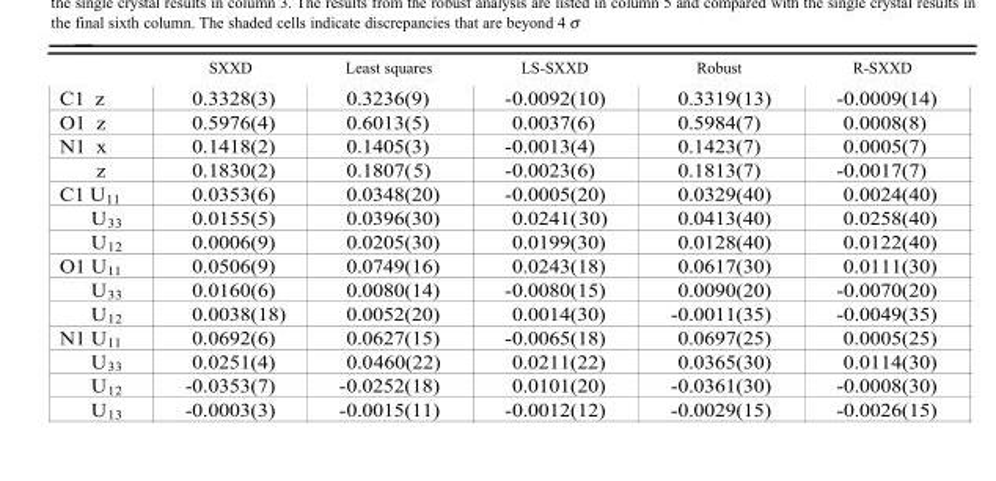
<table><thead><tr><td></td><td>SXXD</td><td>Least squares</td><td>LS-SXXD</td><td>Robust</td><td>R-SXXD</td></tr></thead><tbody><tr><td>C1 z</td><td>0.3328(3)</td><td>0.3236(9)</td><td>-0.0092(10)</td><td>0.3319(13)</td><td>-0.0009(14)</td></tr><tr><td>O1 z</td><td>0.5976(4)</td><td>0.6013(5)</td><td>0.0037(6)</td><td>0.5984(7)</td><td>0.0008(8)</td></tr><tr><td>N1 x</td><td>0.1418(2)</td><td>0.1405(3)</td><td>-0.0013(4)</td><td>0.1423(7)</td><td>0.0005(7)</td></tr><tr><td>z</td><td>0.1830(2)</td><td>0.1807(5)</td><td>-0.0023(6)</td><td>0.1813(7)</td><td>-0.0017(7)</td></tr><tr><td>C1 U<sub>11</sub></td><td>0.0353(6)</td><td>0.0348(20)</td><td>-0.0005(20)</td><td>0.0329(40)</td><td>0.0024(40)</td></tr><tr><td>U<sub>33</sub></td><td>0.0155(5)</td><td>0.0396(30)</td><td>0.0241(30)</td><td>0.0413(40)</td><td>0.0258(40)</td></tr><tr><td>U<sub>12</sub></td><td>0.0006(9)</td><td>0.0205(30)</td><td>0.0199(30)</td><td>0.0128(40)</td><td>0.0122(40)</td></tr><tr><td>O1 U<sub>11</sub></td><td>0.0506(9)</td><td>0.0749(16)</td><td>0.0243(18)</td><td>0.0617(30)</td><td>0.0111(30)</td></tr><tr><td>U<sub>33</sub></td><td>0.0160(6)</td><td>0.0080(14)</td><td>-0.0080(15)</td><td>0.0090(20)</td><td>-0.0070(20)</td></tr><tr><td>U<sub>12</sub></td><td>0.0038(18)</td><td>0.0052(20)</td><td>0.0014(30)</td><td>-0.0011(35)</td><td>-0.0049(35)</td></tr><tr><td>N1 U<sub>11</sub></td><td>0.0692(6)</td><td>0.0627(15)</td><td>-0.0065(18)</td><td>0.0697(25)</td><td>0.0005(25)</td></tr><tr><td>U<sub>33</sub></td><td>0.0251(4)</td><td>0.0460(22)</td><td>0.0211(22)</td><td>0.0365(30)</td><td>0.0114(30)</td></tr><tr><td>U<sub>12</sub></td><td>-0.0353(7)</td><td>-0.0252(18)</td><td>0.0101(20)</td><td>-0.0361(30)</td><td>-0.0008(30)</td></tr><tr><td>U<sub>13</sub></td><td>-0.0003(3)</td><td>-0.0015(11)</td><td>-0.0012(12)</td><td>-0.0029(15)</td><td>-0.0026(15)</td></tr></tbody></table>